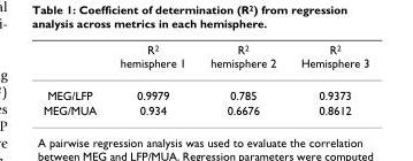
<table><thead><tr><td></td><td>R<sup>2</sup> hemisphere 1</td><td>R<sup>2</sup> hemisphere 2</td><td>R<sup>2</sup> Hemisphere 3</td></tr></thead><tbody><tr><td>MEG/LFP</td><td>0.9979</td><td>0.785</td><td>0.9373</td></tr><tr><td>MEG/MUA</td><td>0.934</td><td>0.6676</td><td>0.8612</td></tr></tbody></table>